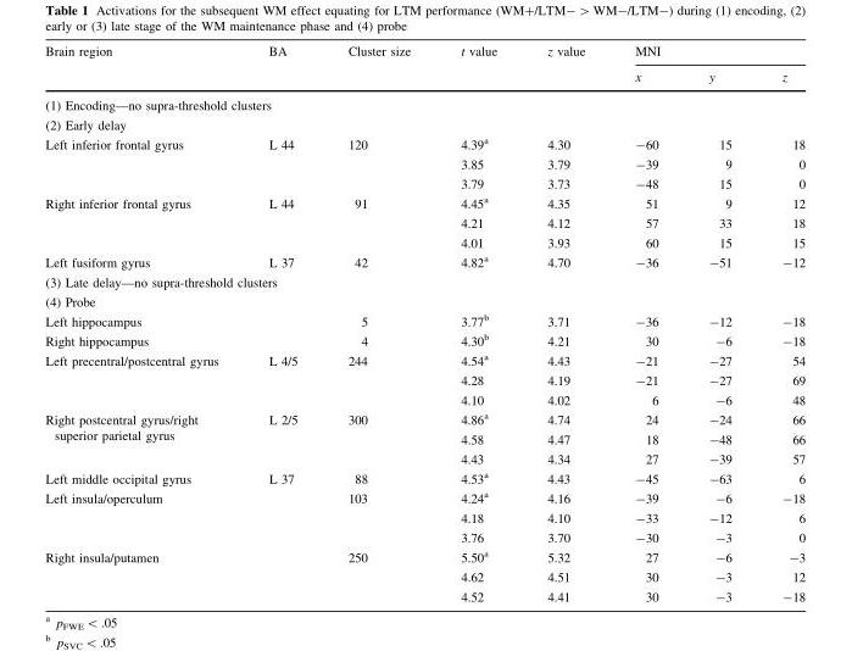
<table><thead><tr><td rowspan="2">Brain region</td><td rowspan="2">BA</td><td rowspan="2">Cluster size</td><td rowspan="2">t value</td><td rowspan="2">z value</td><td colspan="3">MNI</td></tr><tr><td>x</td><td>y</td><td>z</td></tr></thead><tbody><tr><td colspan="8">(1) Encoding—no supra-threshold clusters</td></tr><tr><td colspan="8">(2) Early delay</td></tr><tr><td rowspan="3">Left inferior frontal gyrus</td><td>L 44</td><td>120</td><td>4.39<sup>a</sup></td><td>4.30</td><td>-60</td><td>15</td><td>18</td></tr><tr><td></td><td></td><td>3.85</td><td>3.79</td><td>-39</td><td>9</td><td>0</td></tr><tr><td></td><td></td><td>3.79</td><td>3.73</td><td>-48</td><td>15</td><td>0</td></tr><tr><td rowspan="3">Right inferior frontal gyrus</td><td>L 44</td><td>91</td><td>4.45<sup>a</sup></td><td>4.35</td><td>51</td><td>9</td><td>12</td></tr><tr><td></td><td></td><td>4.21</td><td>4.12</td><td>57</td><td>33</td><td>18</td></tr><tr><td></td><td></td><td>4.01</td><td>3.93</td><td>60</td><td>15</td><td>15</td></tr><tr><td>Left fusiform gyrus</td><td>L 37</td><td>42</td><td>4.82<sup>a</sup></td><td>4.70</td><td>-36</td><td>-51</td><td>-12</td></tr><tr><td colspan="8">(3) Late delay—no supra-threshold clusters</td></tr><tr><td colspan="8">(4) Probe</td></tr><tr><td>Left hippocampus</td><td></td><td>5</td><td>3.77<sup>b</sup></td><td>3.71</td><td>-36</td><td>-12</td><td>-18</td></tr><tr><td>Right hippocampus</td><td></td><td>4</td><td>4.30<sup>b</sup></td><td>4.21</td><td>30</td><td>-6</td><td>-18</td></tr><tr><td rowspan="3">Left precentral/postcentral gyrus</td><td>L 4/5</td><td>244</td><td>4.54<sup>a</sup></td><td>4.43</td><td>-21</td><td>-27</td><td>54</td></tr><tr><td></td><td></td><td>4.28</td><td>4.19</td><td>-21</td><td>-27</td><td>69</td></tr><tr><td></td><td></td><td>4.10</td><td>4.02</td><td>6</td><td>-6</td><td>48</td></tr><tr><td rowspan="3">Right postcentral gyrus/right superior parietal gyrus</td><td>L 2/5</td><td>300</td><td>4.86<sup>a</sup></td><td>4.74</td><td>24</td><td>-24</td><td>66</td></tr><tr><td></td><td></td><td>4.58</td><td>4.47</td><td>18</td><td>-48</td><td>66</td></tr><tr><td></td><td></td><td>4.43</td><td>4.34</td><td>27</td><td>-39</td><td>57</td></tr><tr><td>Left middle occipital gyrus</td><td>L 37</td><td>88</td><td>4.53<sup>a</sup></td><td>4.43</td><td>-45</td><td>-63</td><td>6</td></tr><tr><td rowspan="3">Left insula/operculum</td><td></td><td>103</td><td>4.24<sup>a</sup></td><td>4.16</td><td>-39</td><td>-6</td><td>-18</td></tr><tr><td></td><td></td><td>4.18</td><td>4.10</td><td>-33</td><td>-12</td><td>6</td></tr><tr><td></td><td></td><td>3.76</td><td>3.70</td><td>-30</td><td>-3</td><td>0</td></tr><tr><td rowspan="3">Right insula/putamen</td><td></td><td>250</td><td>5.50<sup>a</sup></td><td>5.32</td><td>27</td><td>-6</td><td>-3</td></tr><tr><td></td><td></td><td>4.62</td><td>4.51</td><td>30</td><td>-3</td><td>12</td></tr><tr><td></td><td></td><td>4.52</td><td>4.41</td><td>30</td><td>-3</td><td>-18</td></tr></tbody></table>